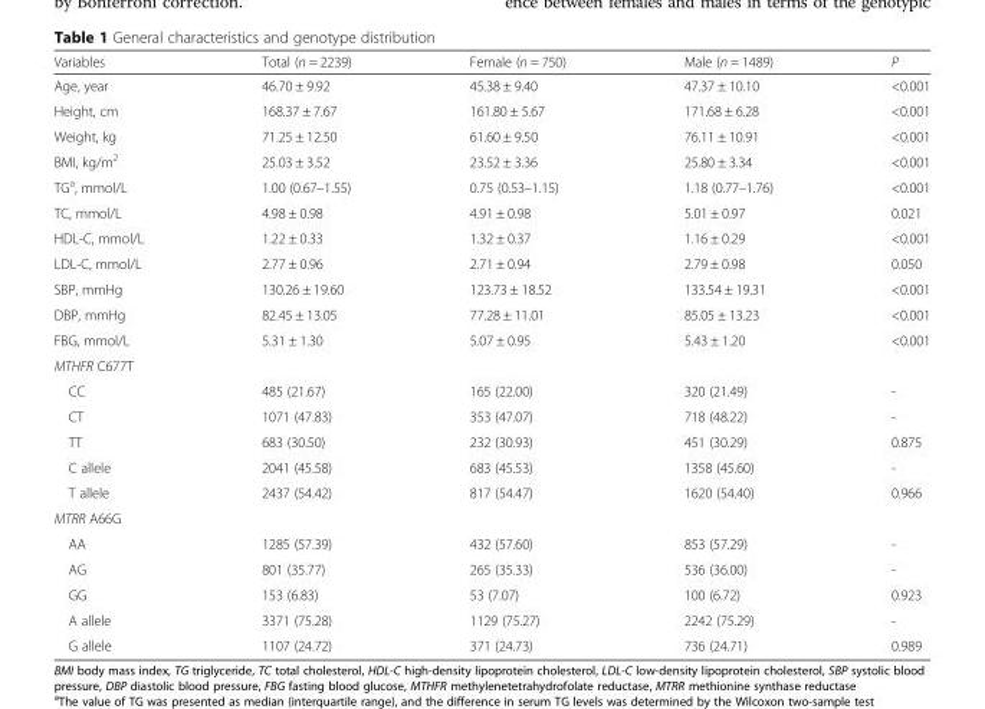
<table><thead><tr><td>Variables</td><td>Total (n = 2239)</td><td>Female (n = 750)</td><td>Male (n = 1489)</td><td>P</td></tr></thead><tbody><tr><td>Age, year</td><td>46.70 ± 9.92</td><td>45.38 ± 9.40</td><td>47.37 ± 10.10</td><td>&lt;0.001</td></tr><tr><td>Height, cm</td><td>168.37 ± 7.67</td><td>161.80 ± 5.67</td><td>171.68 ± 6.28</td><td>&lt;0.001</td></tr><tr><td>Weight, kg</td><td>71.25 ± 12.50</td><td>61.60 ± 9.50</td><td>76.11 ± 10.91</td><td>&lt;0.001</td></tr><tr><td>BMI, kg/m<sup>2</sup></td><td>25.03 ± 3.52</td><td>23.52 ± 3.36</td><td>25.80 ± 3.34</td><td>&lt;0.001</td></tr><tr><td>TG<sup>a</sup>, mmol/L</td><td>1.00 (0.67–1.55)</td><td>0.75 (0.53–1.15)</td><td>1.18 (0.77–1.76)</td><td>&lt;0.001</td></tr><tr><td>TC, mmol/L</td><td>4.98 ± 0.98</td><td>4.91 ± 0.98</td><td>5.01 ± 0.97</td><td>0.021</td></tr><tr><td>HDL-C, mmol/L</td><td>1.22 ± 0.33</td><td>1.32 ± 0.37</td><td>1.16 ± 0.29</td><td>&lt;0.001</td></tr><tr><td>LDL-C, mmol/L</td><td>2.77 ± 0.96</td><td>2.71 ± 0.94</td><td>2.79 ± 0.98</td><td>0.050</td></tr><tr><td>SBP, mmHg</td><td>130.26 ± 19.60</td><td>123.73 ± 18.52</td><td>133.54 ± 19.31</td><td>&lt;0.001</td></tr><tr><td>DBP, mmHg</td><td>82.45 ± 13.05</td><td>77.28 ± 11.01</td><td>85.05 ± 13.23</td><td>&lt;0.001</td></tr><tr><td>FBG, mmol/L</td><td>5.31 ± 1.30</td><td>5.07 ± 0.95</td><td>5.43 ± 1.20</td><td>&lt;0.001</td></tr><tr><td colspan="5">MTHFR C677T</td></tr><tr><td>CC</td><td>485 (21.67)</td><td>165 (22.00)</td><td>320 (21.49)</td><td>-</td></tr><tr><td>CT</td><td>1071 (47.83)</td><td>353 (47.07)</td><td>718 (48.22)</td><td>-</td></tr><tr><td>TT</td><td>683 (30.50)</td><td>232 (30.93)</td><td>451 (30.29)</td><td>0.875</td></tr><tr><td>C allele</td><td>2041 (45.58)</td><td>683 (45.53)</td><td>1358 (45.60)</td><td>-</td></tr><tr><td>T allele</td><td>2437 (54.42)</td><td>817 (54.47)</td><td>1620 (54.40)</td><td>0.966</td></tr><tr><td colspan="5">MTRR A66G</td></tr><tr><td>AA</td><td>1285 (57.39)</td><td>432 (57.60)</td><td>853 (57.29)</td><td>-</td></tr><tr><td>AG</td><td>801 (35.77)</td><td>265 (35.33)</td><td>536 (36.00)</td><td>-</td></tr><tr><td>GG</td><td>153 (6.83)</td><td>53 (7.07)</td><td>100 (6.72)</td><td>0.923</td></tr><tr><td>A allele</td><td>3371 (75.28)</td><td>1129 (75.27)</td><td>2242 (75.29)</td><td>-</td></tr><tr><td>G allele</td><td>1107 (24.72)</td><td>371 (24.73)</td><td>736 (24.71)</td><td>0.989</td></tr></tbody></table>